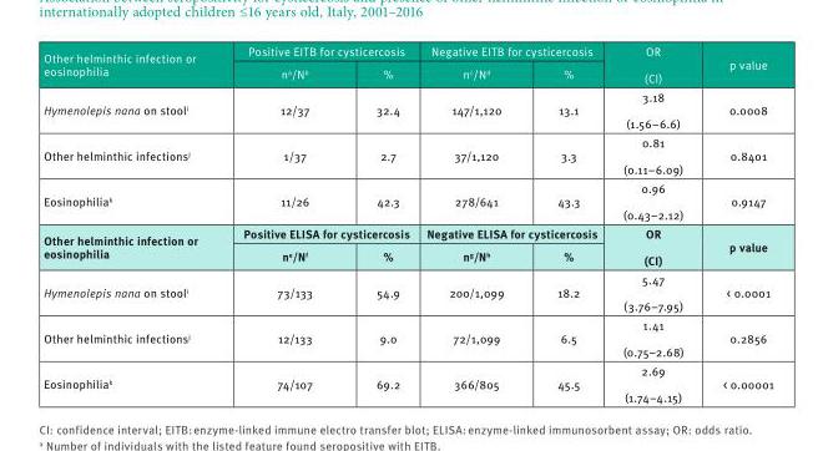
<table><thead><tr><td rowspan="2">Other helminthic infection or eosinophilia</td><td colspan="2">Positive EITB for cysticercosis</td><td colspan="2">Negative EITB for cysticercosis</td><td rowspan="2">OR (CI)</td><td rowspan="2">p value</td></tr><tr><td>n<sup>a</sup>/N<sup>b</sup></td><td>%</td><td>n<sup>c</sup>/N<sup>d</sup></td><td>%</td></tr></thead><tbody><tr><td>Hymenolepis nana on stool<sup>i</sup></td><td>12/37</td><td>32.4</td><td>147/1,120</td><td>13.1</td><td>3.18 (1.56–6.6)</td><td>0.0008</td></tr><tr><td>Other helminthic infections<sup>j</sup></td><td>1/37</td><td>2.7</td><td>37/1,120</td><td>3.3</td><td>0.81 (0.11–6.09)</td><td>0.8401</td></tr><tr><td>Eosinophilia<sup>k</sup></td><td>11/26</td><td>42.3</td><td>278/641</td><td>43.3</td><td>0.96 (0.43–2.12)</td><td>0.9147</td></tr><tr><td rowspan="2">Other helminthic infection or eosinophilia</td><td colspan="2">Positive ELISA for cysticercosis</td><td colspan="2">Negative ELISA for cysticercosis</td><td rowspan="2">OR (CI)</td><td rowspan="2">p value</td></tr><tr><td>n<sup>e</sup>/N<sup>f</sup></td><td>%</td><td>n<sup>g</sup>/N<sup>h</sup></td><td>%</td></tr><tr><td>Hymenolepis nana on stool<sup>i</sup></td><td>73/133</td><td>54.9</td><td>200/1,099</td><td>18.2</td><td>5.47 (3.76–7.95)</td><td>&lt; 0.0001</td></tr><tr><td>Other helminthic infections<sup>j</sup></td><td>12/133</td><td>9.0</td><td>72/1,099</td><td>6.5</td><td>1.41 (0.75–2.68)</td><td>0.2856</td></tr><tr><td>Eosinophilia<sup>k</sup></td><td>74/107</td><td>69.2</td><td>366/805</td><td>45.5</td><td>2.69 (1.74–4.15)</td><td>&lt; 0.00001</td></tr></tbody></table>